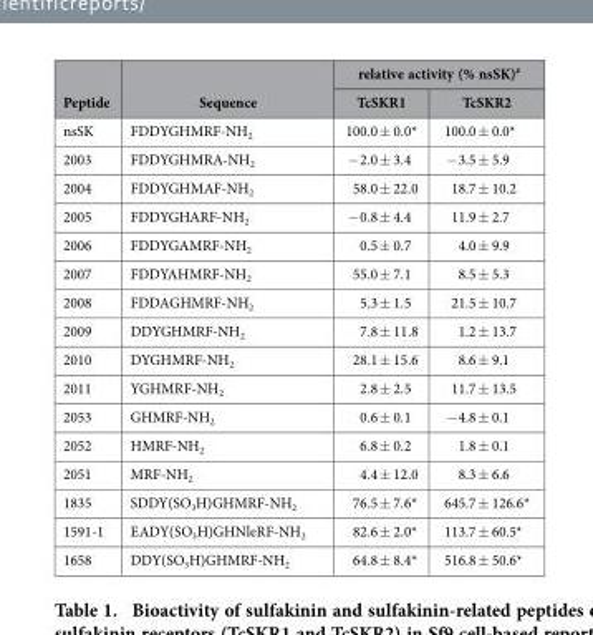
<table><thead><tr><td rowspan="2">Peptide</td><td rowspan="2">Sequence</td><td colspan="2">relative activity (% nsSK)#</td></tr><tr><td>TcSKR1</td><td>TcSKR2</td></tr></thead><tbody><tr><td>nsSK</td><td>FDDYGHMRF-NH<sub>2</sub></td><td>100.0 ± 0.0*</td><td>100.0 ± 0.0*</td></tr><tr><td>2003</td><td>FDDYGHMRA-NH<sub>2</sub></td><td>− 2.0 ± 3.4</td><td>− 3.5 ± 5.9</td></tr><tr><td>2004</td><td>FDDYGHMAF-NH<sub>2</sub></td><td>58.0 ± 22.0</td><td>18.7 ± 10.2</td></tr><tr><td>2005</td><td>FDDYGHARF-NH<sub>2</sub></td><td>− 0.8 ± 4.4</td><td>11.9 ± 2.7</td></tr><tr><td>2006</td><td>FDDYGAMRF-NH<sub>2</sub></td><td>0.5 ± 0.7</td><td>4.0 ± 9.9</td></tr><tr><td>2007</td><td>FDDYAHMRF-NH<sub>2</sub></td><td>55.0 ± 7.1</td><td>8.5 ± 5.3</td></tr><tr><td>2008</td><td>FDDAGHMRF-NH<sub>2</sub></td><td>5.3 ± 1.5</td><td>21.5 ± 10.7</td></tr><tr><td>2009</td><td>DDYGHMRF-NH<sub>2</sub></td><td>7.8 ± 11.8</td><td>1.2 ± 13.7</td></tr><tr><td>2010</td><td>DYGHMRF-NH<sub>2</sub></td><td>28.1 ± 15.6</td><td>8.6 ± 9.1</td></tr><tr><td>2011</td><td>YGHMRF-NH<sub>2</sub></td><td>2.8 ± 2.5</td><td>11.7 ± 13.5</td></tr><tr><td>2053</td><td>GHMRF-NH<sub>2</sub></td><td>0.6 ± 0.1</td><td>− 4.8 ± 0.1</td></tr><tr><td>2052</td><td>HMRF-NH<sub>2</sub></td><td>6.8 ± 0.2</td><td>1.8 ± 0.1</td></tr><tr><td>2051</td><td>MRF-NH<sub>2</sub></td><td>4.4 ± 12.0</td><td>8.3 ± 6.6</td></tr><tr><td>1835</td><td>SDDY(SO<sub>3</sub>H)GHMRF-NH<sub>2</sub></td><td>76.5 ± 7.6*</td><td>645.7 ± 126.6*</td></tr><tr><td>1591-1</td><td>EADY(SO<sub>3</sub>H)GHNleRF-NH<sub>2</sub></td><td>82.6 ± 2.0*</td><td>113.7 ± 60.5*</td></tr><tr><td>1658</td><td>DDY(SO<sub>3</sub>H)GHMRF-NH<sub>2</sub></td><td>64.8 ± 8.4*</td><td>516.8 ± 50.6*</td></tr></tbody></table>